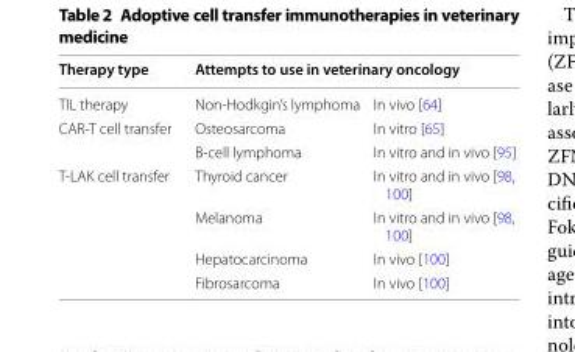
<table><thead><tr><td rowspan="2">Therapy type TIL therapy</td><td colspan="2">Attempts to use in veterinary oncology</td></tr><tr><td>Non-Hodkgin’s lymphoma</td><td>In vivo [64]</td></tr></thead><tbody><tr><td rowspan="2">CAR-T cell transfer</td><td>Osteosarcoma</td><td>In vitro [65]</td></tr><tr><td>B-cell lymphoma</td><td>In vitro and in vivo [95]</td></tr><tr><td rowspan="4">T-LAK cell transfer</td><td>Thyroid cancer</td><td>In vitro and in vivo [98, 100]</td></tr><tr><td>Melanoma</td><td>In vitro and in vivo [98, 100]</td></tr><tr><td>Hepatocarcinoma</td><td>In vivo [100]</td></tr><tr><td>Fibrosarcoma</td><td>In vivo [100]</td></tr></tbody></table>